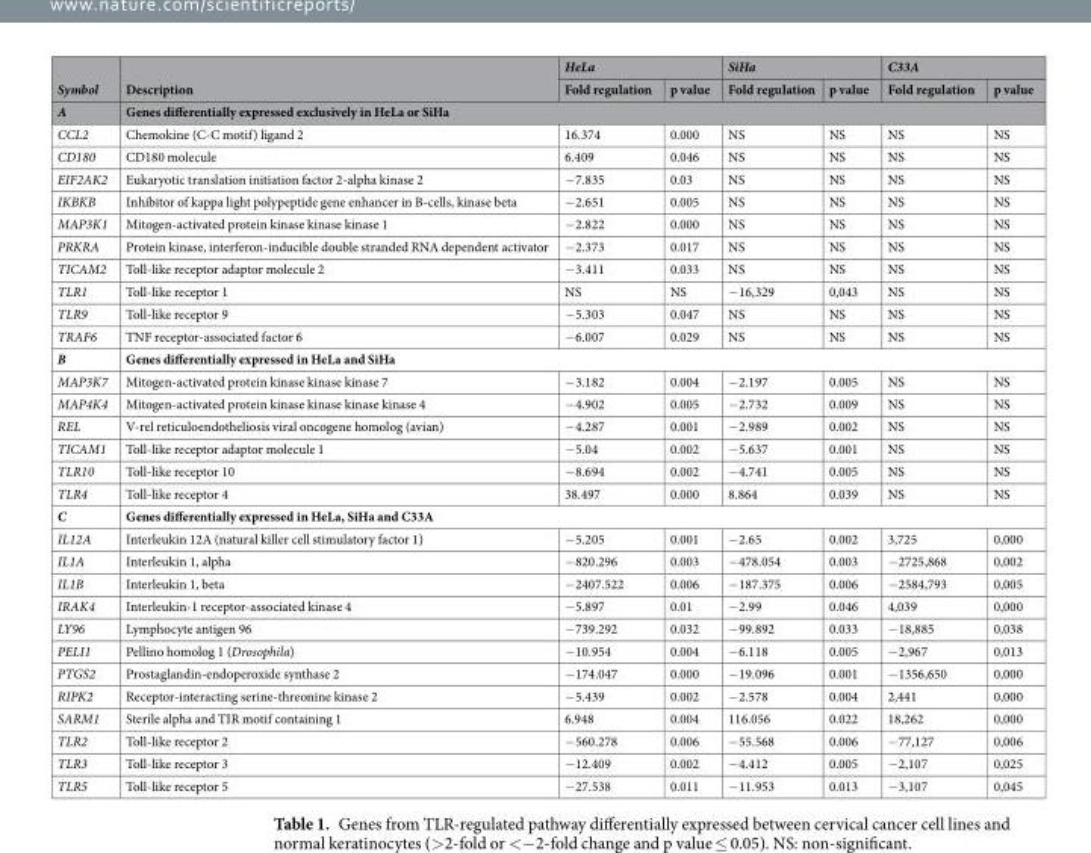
<table><thead><tr><td rowspan="3">Symbol A</td><td rowspan="2">Description</td><td colspan="2">HeLa</td><td colspan="2">SiHa</td><td colspan="2">C33A</td></tr><tr><td>Fold regulation</td><td>p value</td><td>Fold regulation</td><td>p value</td><td>Fold regulation</td><td>p value</td></tr><tr><td colspan="7">Genes differentially expressed exclusively in HeLa or SiHa</td></tr></thead><tbody><tr><td>CCL2</td><td>Chemokine (C-C motif) ligand 2</td><td>16.374</td><td>0.000</td><td>NS</td><td>NS</td><td>NS</td><td>NS</td></tr><tr><td>CD180</td><td>CD180 molecule</td><td>6.409</td><td>0.046</td><td>NS</td><td>NS</td><td>NS</td><td>NS</td></tr><tr><td>EIF2AK2</td><td>Eukaryotic translation initiation factor 2-alpha kinase 2</td><td>−7.835</td><td>0.03</td><td>NS</td><td>NS</td><td>NS</td><td>NS</td></tr><tr><td>IKBKB</td><td>Inhibitor of kappa light polypeptide gene enhancer in B-cells, kinase beta</td><td>−2.651</td><td>0.005</td><td>NS</td><td>NS</td><td>NS</td><td>NS</td></tr><tr><td>MAP3K1</td><td>Mitogen-activated protein kinase kinase kinase 1</td><td>−2.822</td><td>0.000</td><td>NS</td><td>NS</td><td>NS</td><td>NS</td></tr><tr><td>PRKRA</td><td>Protein kinase, interferon-inducible double stranded RNA dependent activator</td><td>−2.373</td><td>0.017</td><td>NS</td><td>NS</td><td>NS</td><td>NS</td></tr><tr><td>TICAM2</td><td>Toll-like receptor adaptor molecule 2</td><td>−3.411</td><td>0.033</td><td>NS</td><td>NS</td><td>NS</td><td>NS</td></tr><tr><td>TLR1</td><td>Toll-like receptor 1</td><td>NS</td><td>NS</td><td>−16,329</td><td>0,043</td><td>NS</td><td>NS</td></tr><tr><td>TLR9</td><td>Toll-like receptor 9</td><td>−5.303</td><td>0.047</td><td>NS</td><td>NS</td><td>NS</td><td>NS</td></tr><tr><td>TRAF6</td><td>TNF receptor-associated factor 6</td><td>−6.007</td><td>0.029</td><td>NS</td><td>NS</td><td>NS</td><td>NS</td></tr><tr><td>B</td><td colspan="7">Genes differentially expressed in HeLa and SiHa</td></tr><tr><td>MAP3K7</td><td>Mitogen-activated protein kinase kinase kinase 7</td><td>−3.182</td><td>0.004</td><td>−2.197</td><td>0.005</td><td>NS</td><td>NS</td></tr><tr><td>MAP4K4</td><td>Mitogen-activated protein kinase kinase kinase kinase 4</td><td>−4.902</td><td>0.005</td><td>−2.732</td><td>0.009</td><td>NS</td><td>NS</td></tr><tr><td>REL</td><td>V-rel reticuloendotheliosis viral oncogene homolog (avian)</td><td>−4.287</td><td>0.001</td><td>−2.989</td><td>0.002</td><td>NS</td><td>NS</td></tr><tr><td>TICAM1</td><td>Toll-like receptor adaptor molecule 1</td><td>−5.04</td><td>0.002</td><td>−5.637</td><td>0.001</td><td>NS</td><td>NS</td></tr><tr><td>TLR10</td><td>Toll-like receptor 10</td><td>−8.694</td><td>0.002</td><td>−4.741</td><td>0.005</td><td>NS</td><td>NS</td></tr><tr><td>TLR4</td><td>Toll-like receptor 4</td><td>38.497</td><td>0.000</td><td>8.864</td><td>0.039</td><td>NS</td><td>NS</td></tr><tr><td>C</td><td colspan="7">Genes differentially expressed in HeLa, SiHa and C33A</td></tr><tr><td>IL12A</td><td>Interleukin 12A (natural killer cell stimulatory factor 1)</td><td>−5.205</td><td>0.001</td><td>−2.65</td><td>0.002</td><td>3,725</td><td>0,000</td></tr><tr><td>IL1A</td><td>Interleukin 1, alpha</td><td>−820.296</td><td>0.003</td><td>−478.054</td><td>0.003</td><td>−2725,868</td><td>0,002</td></tr><tr><td>IL1B</td><td>Interleukin 1, beta</td><td>−2407.522</td><td>0.006</td><td>−187.375</td><td>0.006</td><td>−2584,793</td><td>0,005</td></tr><tr><td>IRAK4</td><td>Interleukin-1 receptor-associated kinase 4</td><td>−5.897</td><td>0.01</td><td>−2.99</td><td>0.046</td><td>4,039</td><td>0,000</td></tr><tr><td>LY96</td><td>Lymphocyte antigen 96</td><td>−739.292</td><td>0.032</td><td>−99.892</td><td>0.033</td><td>−18,885</td><td>0,038</td></tr><tr><td>PELI1</td><td>Pellino homolog 1 (Drosophila)</td><td>−10.954</td><td>0.004</td><td>−6.118</td><td>0.005</td><td>−2,967</td><td>0,013</td></tr><tr><td>PTGS2</td><td>Prostaglandin-endoperoxide synthase 2</td><td>−174.047</td><td>0.000</td><td>−19.096</td><td>0.001</td><td>−1356,650</td><td>0,000</td></tr><tr><td>RIPK2</td><td>Receptor-interacting serine-threonine kinase 2</td><td>−5.439</td><td>0.002</td><td>−2.578</td><td>0.004</td><td>2,441</td><td>0,000</td></tr><tr><td>SARM1</td><td>Sterile alpha and TIR motif containing 1</td><td>6.948</td><td>0.004</td><td>116.056</td><td>0.022</td><td>18,262</td><td>0,000</td></tr><tr><td>TLR2</td><td>Toll-like receptor 2</td><td>−560.278</td><td>0.006</td><td>−55.568</td><td>0.006</td><td>−77,127</td><td>0,006</td></tr><tr><td>TLR3</td><td>Toll-like receptor 3</td><td>−12.409</td><td>0.002</td><td>−4.412</td><td>0.005</td><td>−2,107</td><td>0,025</td></tr><tr><td>TLR5</td><td>Toll-like receptor 5</td><td>−27.538</td><td>0.011</td><td>−11.953</td><td>0.013</td><td>−3,107</td><td>0,045</td></tr></tbody></table>